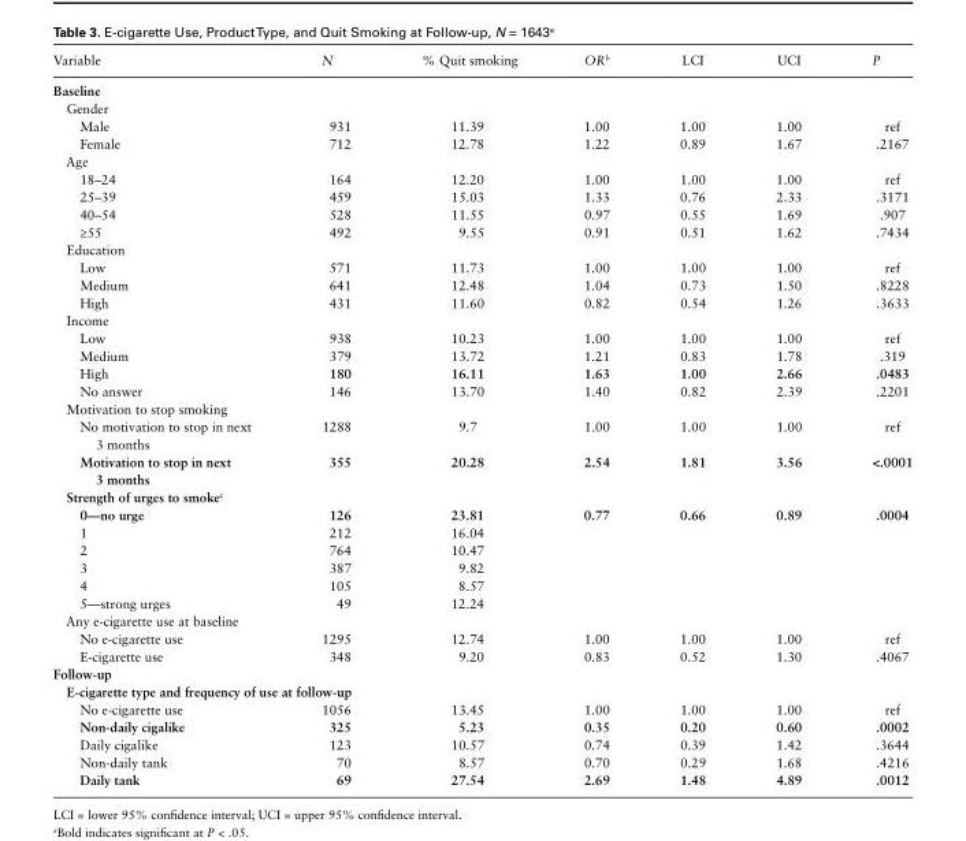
<table><thead><tr><td>Variable</td><td>N</td><td>% Quit smoking</td><td>OR<sup>b</sup></td><td>LCI</td><td>UCI</td><td>P</td></tr></thead><tbody><tr><td colspan="7">Baseline</td></tr><tr><td colspan="7">Gender</td></tr><tr><td>Male</td><td>931</td><td>11.39</td><td>1.00</td><td>1.00</td><td>1.00</td><td>ref</td></tr><tr><td>Female</td><td>712</td><td>12.78</td><td>1.22</td><td>0.89</td><td>1.67</td><td>.2167</td></tr><tr><td colspan="7">Age</td></tr><tr><td>18–24</td><td>164</td><td>12.20</td><td>1.00</td><td>1.00</td><td>1.00</td><td>ref</td></tr><tr><td>25–39</td><td>459</td><td>15.03</td><td>1.33</td><td>0.76</td><td>2.33</td><td>.3171</td></tr><tr><td>40–54</td><td>528</td><td>11.55</td><td>0.97</td><td>0.55</td><td>1.69</td><td>.907</td></tr><tr><td>≥55</td><td>492</td><td>9.55</td><td>0.91</td><td>0.51</td><td>1.62</td><td>.7434</td></tr><tr><td colspan="7">Education</td></tr><tr><td>Low</td><td>571</td><td>11.73</td><td>1.00</td><td>1.00</td><td>1.00</td><td>ref</td></tr><tr><td>Medium</td><td>641</td><td>12.48</td><td>1.04</td><td>0.73</td><td>1.50</td><td>.8228</td></tr><tr><td>High</td><td>431</td><td>11.60</td><td>0.82</td><td>0.54</td><td>1.26</td><td>.3633</td></tr><tr><td colspan="7">Income</td></tr><tr><td>Low</td><td>938</td><td>10.23</td><td>1.00</td><td>1.00</td><td>1.00</td><td>ref</td></tr><tr><td>Medium</td><td>379</td><td>13.72</td><td>1.21</td><td>0.83</td><td>1.78</td><td>.319</td></tr><tr><td>High</td><td>180</td><td>16.11</td><td>1.63</td><td>1.00</td><td>2.66</td><td>.0483</td></tr><tr><td>No answer</td><td>146</td><td>13.70</td><td>1.40</td><td>0.82</td><td>2.39</td><td>.2201</td></tr><tr><td colspan="7">Motivation to stop smoking</td></tr><tr><td>No motivation to stop in next 3 months</td><td>1288</td><td>9.7</td><td>1.00</td><td>1.00</td><td>1.00</td><td>ref</td></tr><tr><td>Motivation to stop in next 3 months</td><td>355</td><td>20.28</td><td>2.54</td><td>1.81</td><td>3.56</td><td>&lt;.0001</td></tr><tr><td colspan="7">Strength of urges to smoke<sup>c</sup></td></tr><tr><td>0—no urge</td><td>126</td><td>23.81</td><td>0.77</td><td>0.66</td><td>0.89</td><td>.0004</td></tr><tr><td>1</td><td>212</td><td>16.04</td><td></td><td></td><td></td><td></td></tr><tr><td>2</td><td>764</td><td>10.47</td><td></td><td></td><td></td><td></td></tr><tr><td>3</td><td>387</td><td>9.82</td><td></td><td></td><td></td><td></td></tr><tr><td>4</td><td>105</td><td>8.57</td><td></td><td></td><td></td><td></td></tr><tr><td>5—strong urges</td><td>49</td><td>12.24</td><td></td><td></td><td></td><td></td></tr><tr><td colspan="7">Any e-cigarette use at baseline</td></tr><tr><td>No e-cigarette use</td><td>1295</td><td>12.74</td><td>1.00</td><td>1.00</td><td>1.00</td><td>ref</td></tr><tr><td>E-cigarette use</td><td>348</td><td>9.20</td><td>0.83</td><td>0.52</td><td>1.30</td><td>.4067</td></tr><tr><td colspan="7">Follow-up</td></tr><tr><td colspan="7">E-cigarette type and frequency of use at follow-up</td></tr><tr><td>No e-cigarette use</td><td>1056</td><td>13.45</td><td>1.00</td><td>1.00</td><td>1.00</td><td>ref</td></tr><tr><td>Non-daily cigalike</td><td>325</td><td>5.23</td><td>0.35</td><td>0.20</td><td>0.60</td><td>.0002</td></tr><tr><td>Daily cigalike</td><td>123</td><td>10.57</td><td>0.74</td><td>0.39</td><td>1.42</td><td>.3644</td></tr><tr><td>Non-daily tank</td><td>70</td><td>8.57</td><td>0.70</td><td>0.29</td><td>1.68</td><td>.4216</td></tr><tr><td>Daily tank</td><td>69</td><td>27.54</td><td>2.69</td><td>1.48</td><td>4.89</td><td>.0012</td></tr></tbody></table>